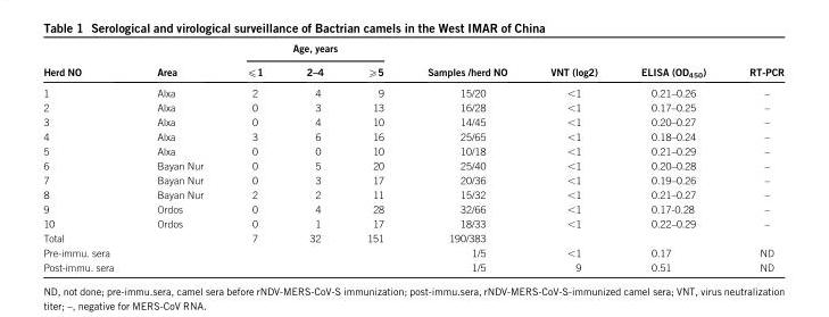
<table><thead><tr><td rowspan="2">Herd NO</td><td rowspan="2">Area</td><td colspan="3">Age, years</td><td rowspan="2">Samples /herd NO</td><td rowspan="2">VNT (log2)</td><td rowspan="2">ELISA (OD<sub>450</sub>)</td><td rowspan="2">RT-PCR</td></tr><tr><td>≤1</td><td>2–4</td><td>≥5</td></tr></thead><tbody><tr><td>1</td><td>Alxa</td><td>2</td><td>4</td><td>9</td><td>15/20</td><td>&lt;1</td><td>0.21–0.26</td><td>–</td></tr><tr><td>2</td><td>Alxa</td><td>0</td><td>3</td><td>13</td><td>16/28</td><td>&lt;1</td><td>0.17–0.25</td><td>–</td></tr><tr><td>3</td><td>Alxa</td><td>0</td><td>4</td><td>10</td><td>14/45</td><td>&lt;1</td><td>0.20–0.27</td><td>–</td></tr><tr><td>4</td><td>Alxa</td><td>3</td><td>6</td><td>16</td><td>25/65</td><td>&lt;1</td><td>0.18–0.24</td><td>–</td></tr><tr><td>5</td><td>Alxa</td><td>0</td><td>0</td><td>10</td><td>10/18</td><td>&lt;1</td><td>0.21–0.29</td><td>–</td></tr><tr><td>6</td><td>Bayan Nur</td><td>0</td><td>5</td><td>20</td><td>25/40</td><td>&lt;1</td><td>0.20–0.28</td><td>–</td></tr><tr><td>7</td><td>Bayan Nur</td><td>0</td><td>3</td><td>17</td><td>20/36</td><td>&lt;1</td><td>0.19–0.26</td><td>–</td></tr><tr><td>8</td><td>Bayan Nur</td><td>2</td><td>2</td><td>11</td><td>15/32</td><td>&lt;1</td><td>0.21–0.27</td><td>–</td></tr><tr><td>9</td><td>Ordos</td><td>0</td><td>4</td><td>28</td><td>32/66</td><td>&lt;1</td><td>0.17-0.28</td><td>–</td></tr><tr><td>10</td><td>Ordos</td><td>0</td><td>1</td><td>17</td><td>18/33</td><td>&lt;1</td><td>0.22–0.29</td><td>–</td></tr><tr><td>Total</td><td></td><td>7</td><td>32</td><td>151</td><td>190/383</td><td></td><td></td><td></td></tr><tr><td>Pre-immu. sera</td><td></td><td></td><td></td><td></td><td>1/5</td><td>&lt;1</td><td>0.17</td><td>ND</td></tr><tr><td>Post-immu. sera</td><td></td><td></td><td></td><td></td><td>1/5</td><td>9</td><td>0.51</td><td>ND</td></tr></tbody></table>